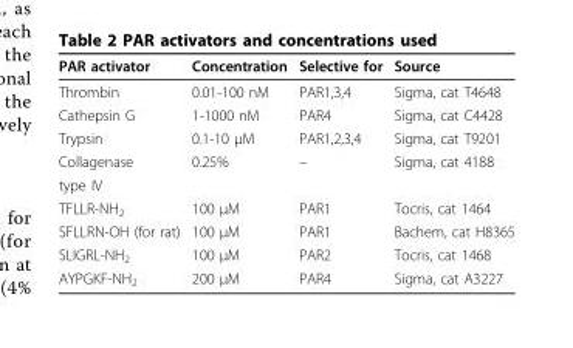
<table><thead><tr><td>PAR activator</td><td>Concentration</td><td>Selective for</td><td>Source</td></tr></thead><tbody><tr><td>Thrombin</td><td>0.01-100 nM</td><td>PAR1,3,4</td><td>Sigma, cat T4648</td></tr><tr><td>Cathepsin G</td><td>1-1000 nM</td><td>PAR4</td><td>Sigma, cat C4428</td></tr><tr><td>Trypsin</td><td>0.1-10 μM</td><td>PAR1,2,3,4</td><td>Sigma, cat T9201</td></tr><tr><td>Collagenase</td><td>0.25%</td><td>–</td><td>Sigma, cat 4188</td></tr><tr><td colspan="4">type IV</td></tr><tr><td>TFLLR-NH<sub>2</sub></td><td>100 μM</td><td>PAR1</td><td>Tocris, cat 1464</td></tr><tr><td>SFLLRN-OH (for rat)</td><td>100 μM</td><td>PAR1</td><td>Bachem, cat H8365</td></tr><tr><td>SLIGRL-NH<sub>2</sub></td><td>100 μM</td><td>PAR2</td><td>Tocris, cat 1468</td></tr><tr><td>AYPGKF-NH<sub>2</sub></td><td>200 μM</td><td>PAR4</td><td>Sigma, cat A3227</td></tr></tbody></table>